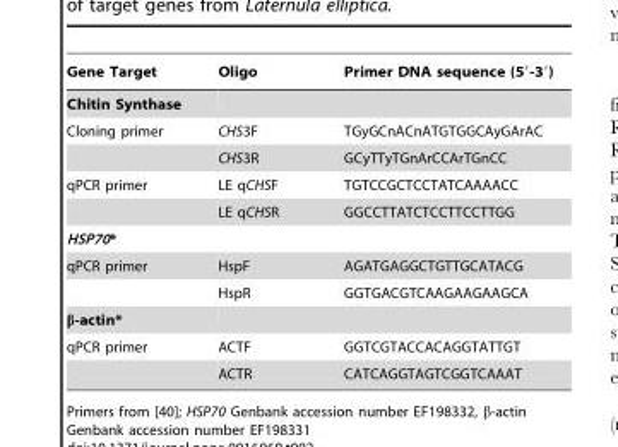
<table><thead><tr><td>Gene Target</td><td>Oligo</td><td>Primer DNA sequence (5′-3′)</td></tr></thead><tbody><tr><td colspan="3">Chitin Synthase</td></tr><tr><td rowspan="2">Cloning primer</td><td>CHS3F</td><td>TGyGCnACnATGTGGCAyGArAC</td></tr><tr><td>CHS3R</td><td>GCyTTyTGnArCCArTGnCC</td></tr><tr><td rowspan="2">qPCR primer</td><td>LE qCHSF</td><td>TGTCCGCTCCTATCAAAACC</td></tr><tr><td>LE qCHSR</td><td>GGCCTTATCTCCTTCCTTGG</td></tr><tr><td colspan="3">HSP70*</td></tr><tr><td rowspan="2">qPCR primer</td><td>HspF</td><td>AGATGAGGCTGTTGCATACG</td></tr><tr><td>HspR</td><td>GGTGACGTCAAGAAGAAGCA</td></tr><tr><td colspan="3">β-actin*</td></tr><tr><td rowspan="2">qPCR primer</td><td>ACTF</td><td>GGTCGTACCACAGGTATTGT</td></tr><tr><td>ACTR</td><td>CATCAGGTAGTCGGTCAAAT</td></tr></tbody></table>